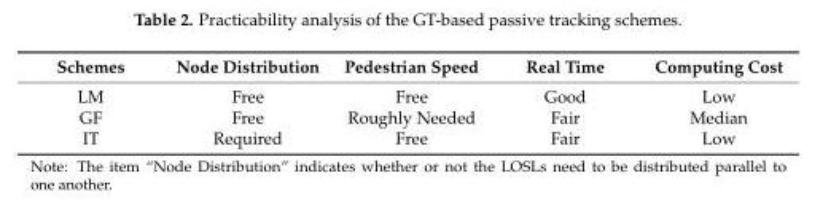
<table><thead><tr><td>Schemes</td><td>Node Distribution</td><td>Pedestrian Speed</td><td>Real Time</td><td>Computing Cost</td></tr></thead><tbody><tr><td>LM</td><td>Free</td><td>Free</td><td>Good</td><td>Low</td></tr><tr><td>GF</td><td>Free</td><td>Roughly Needed</td><td>Fair</td><td>Median</td></tr><tr><td>IT</td><td>Required</td><td>Free</td><td>Fair</td><td>Low</td></tr></tbody></table>